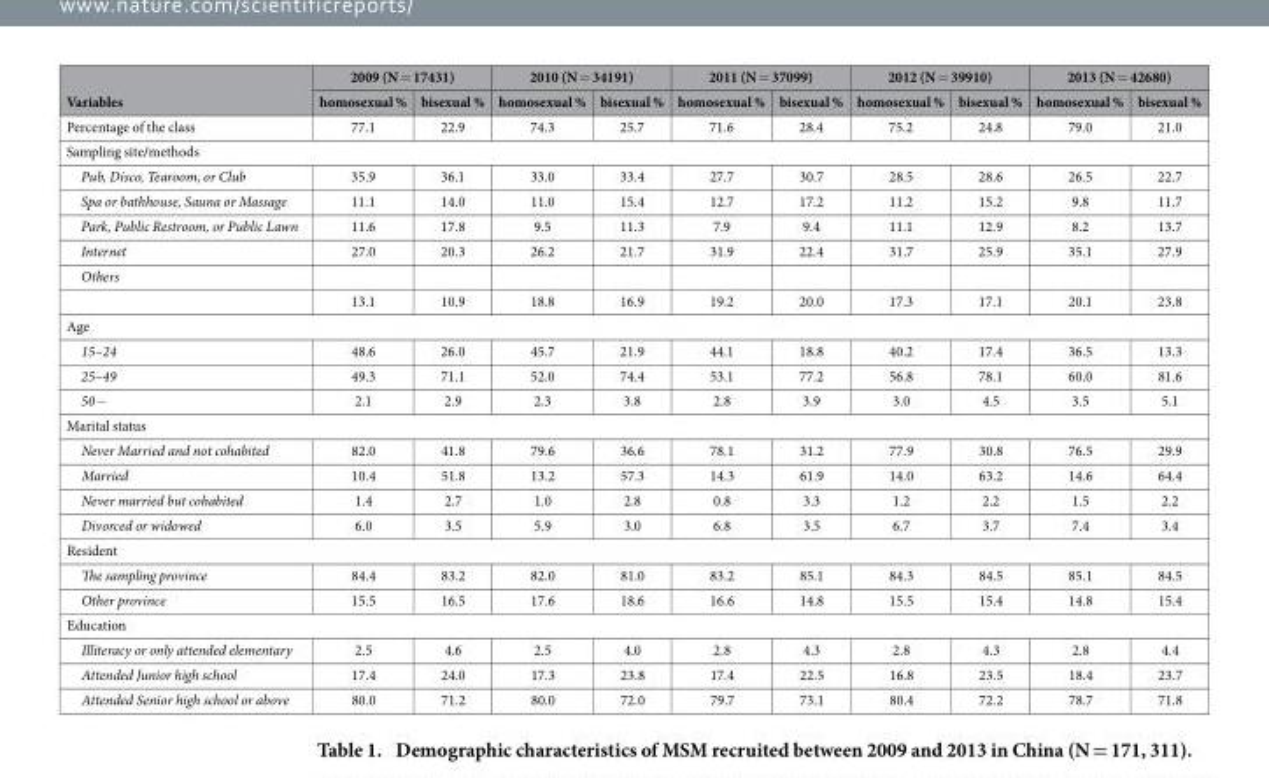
<table><thead><tr><td rowspan="2">Variables</td><td colspan="2">2009 (N = 17431)</td><td colspan="2">2010 (N = 34191)</td><td colspan="2">2011 (N = 37099)</td><td colspan="2">2012 (N = 39910)</td><td colspan="2">2013 (N = 42680)</td></tr><tr><td>homosexual %</td><td>bisexual %</td><td>homosexual %</td><td>bisexual %</td><td>homosexual %</td><td>bisexual %</td><td>homosexual %</td><td>bisexual %</td><td>homosexual %</td><td>bisexual %</td></tr></thead><tbody><tr><td>Percentage of the class</td><td>77.1</td><td>22.9</td><td>74.3</td><td>25.7</td><td>71.6</td><td>28.4</td><td>75.2</td><td>24.8</td><td>79.0</td><td>21.0</td></tr><tr><td colspan="11">Sampling site/methods</td></tr><tr><td>Pub, Disco, Tearoom, or Club</td><td>35.9</td><td>36.1</td><td>33.0</td><td>33.4</td><td>27.7</td><td>30.7</td><td>28.5</td><td>28.6</td><td>26.5</td><td>22.7</td></tr><tr><td>Spa or bathhouse, Sauna or Massage</td><td>11.1</td><td>14.0</td><td>11.0</td><td>15.4</td><td>12.7</td><td>17.2</td><td>11.2</td><td>15.2</td><td>9.8</td><td>11.7</td></tr><tr><td>Park, Public Restroom, or Public Lawn</td><td>11.6</td><td>17.8</td><td>9.5</td><td>11.3</td><td>7.9</td><td>9.4</td><td>11.1</td><td>12.9</td><td>8.2</td><td>13.7</td></tr><tr><td>Internet</td><td>27.0</td><td>20.3</td><td>26.2</td><td>21.7</td><td>31.9</td><td>22.4</td><td>31.7</td><td>25.9</td><td>35.1</td><td>27.9</td></tr><tr><td colspan="11">Others</td></tr><tr><td></td><td>13.1</td><td>10.9</td><td>18.8</td><td>16.9</td><td>19.2</td><td>20.0</td><td>17.3</td><td>17.1</td><td>20.1</td><td>23.8</td></tr><tr><td colspan="11">Age</td></tr><tr><td>15–24</td><td>48.6</td><td>26.0</td><td>45.7</td><td>21.9</td><td>44.1</td><td>18.8</td><td>40.2</td><td>17.4</td><td>36.5</td><td>13.3</td></tr><tr><td>25–49</td><td>49.3</td><td>71.1</td><td>52.0</td><td>74.4</td><td>53.1</td><td>77.2</td><td>56.8</td><td>78.1</td><td>60.0</td><td>81.6</td></tr><tr><td>50−</td><td>2.1</td><td>2.9</td><td>2.3</td><td>3.8</td><td>2.8</td><td>3.9</td><td>3.0</td><td>4.5</td><td>3.5</td><td>5.1</td></tr><tr><td colspan="11">Marital status</td></tr><tr><td>Never Married and not cohabited</td><td>82.0</td><td>41.8</td><td>79.6</td><td>36.6</td><td>78.1</td><td>31.2</td><td>77.9</td><td>30.8</td><td>76.5</td><td>29.9</td></tr><tr><td>Married</td><td>10.4</td><td>51.8</td><td>13.2</td><td>57.3</td><td>14.3</td><td>61.9</td><td>14.0</td><td>63.2</td><td>14.6</td><td>64.4</td></tr><tr><td>Never married but cohabited</td><td>1.4</td><td>2.7</td><td>1.0</td><td>2.8</td><td>0.8</td><td>3.3</td><td>1.2</td><td>2.2</td><td>1.5</td><td>2.2</td></tr><tr><td>Divorced or widowed</td><td>6.0</td><td>3.5</td><td>5.9</td><td>3.0</td><td>6.8</td><td>3.5</td><td>6.7</td><td>3.7</td><td>7.4</td><td>3.4</td></tr><tr><td colspan="11">Resident</td></tr><tr><td>The sampling province</td><td>84.4</td><td>83.2</td><td>82.0</td><td>81.0</td><td>83.2</td><td>85.1</td><td>84.3</td><td>84.5</td><td>85.1</td><td>84.5</td></tr><tr><td>Other province</td><td>15.5</td><td>16.5</td><td>17.6</td><td>18.6</td><td>16.6</td><td>14.8</td><td>15.5</td><td>15.4</td><td>14.8</td><td>15.4</td></tr><tr><td colspan="11">Education</td></tr><tr><td>Illiteracy or only attended elementary</td><td>2.5</td><td>4.6</td><td>2.5</td><td>4.0</td><td>2.8</td><td>4.3</td><td>2.8</td><td>4.3</td><td>2.8</td><td>4.4</td></tr><tr><td>Attended Junior high school</td><td>17.4</td><td>24.0</td><td>17.3</td><td>23.8</td><td>17.4</td><td>22.5</td><td>16.8</td><td>23.5</td><td>18.4</td><td>23.7</td></tr><tr><td>Attended Senior high school or above</td><td>80.0</td><td>71.2</td><td>80.0</td><td>72.0</td><td>79.7</td><td>73.1</td><td>80.4</td><td>72.2</td><td>78.7</td><td>71.8</td></tr></tbody></table>